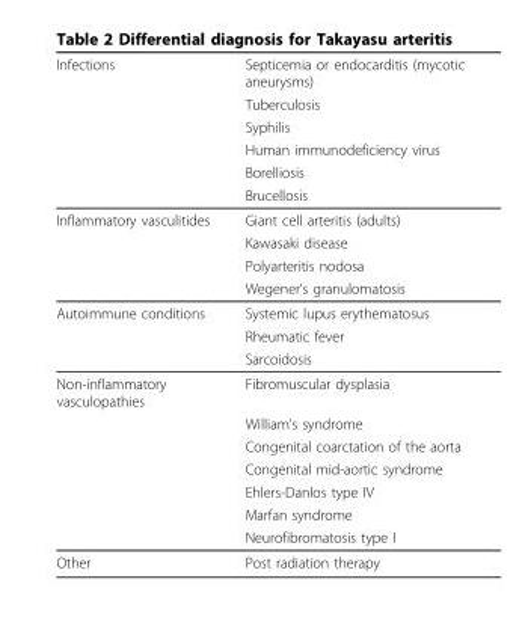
<table><thead><tr><td rowspan="6">Infections</td><td rowspan="6">Septicemia or endocarditis (mycotic aneurysms) Tuberculosis Syphilis Human immunodeficiency virus Borelliosis Brucellosis</td></tr><tr></tr><tr></tr><tr></tr><tr></tr><tr></tr></thead><tbody><tr><td rowspan="4">Inflammatory vasculitides</td><td>Giant cell arteritis (adults)</td></tr><tr><td>Kawasaki disease</td></tr><tr><td>Polyarteritis nodosa</td></tr><tr><td>Wegener’s granulomatosis</td></tr><tr><td rowspan="3">Autoimmune conditions</td><td>Systemic lupus erythematosus</td></tr><tr><td>Rheumatic fever</td></tr><tr><td>Sarcoidosis</td></tr><tr><td rowspan="7">Non-inflammatory vasculopathies</td><td>Fibromuscular dysplasia</td></tr><tr><td>William’s syndrome</td></tr><tr><td>Congenital coarctation of the aorta</td></tr><tr><td>Congenital mid-aortic syndrome</td></tr><tr><td>Ehlers-Danlos type IV</td></tr><tr><td>Marfan syndrome</td></tr><tr><td>Neurofibromatosis type I</td></tr><tr><td>Other</td><td>Post radiation therapy</td></tr></tbody></table>